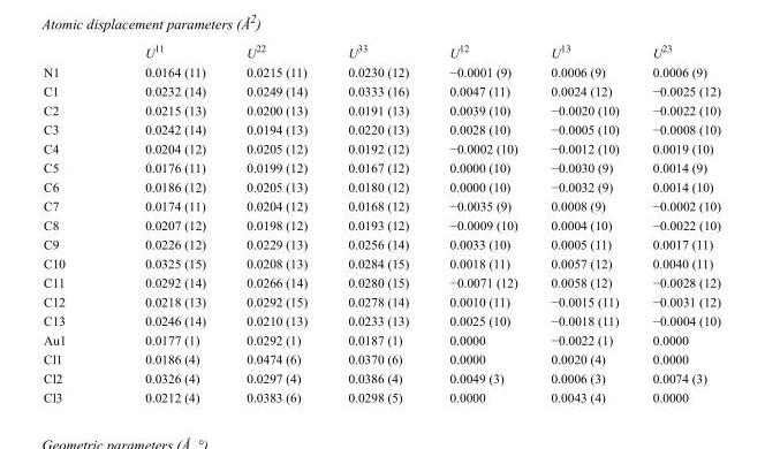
<table><thead><tr><td></td><td>U<sup>11</sup></td><td>U<sup>22</sup></td><td>U<sup>33</sup></td><td>U<sup>12</sup></td><td>U<sup>13</sup></td><td>U<sup>23</sup></td></tr></thead><tbody><tr><td>N1</td><td>0.0164 (11)</td><td>0.0215 (11)</td><td>0.0230 (12)</td><td>−0.0001 (9)</td><td>0.0006 (9)</td><td>0.0006 (9)</td></tr><tr><td>C1</td><td>0.0232 (14)</td><td>0.0249 (14)</td><td>0.0333 (16)</td><td>0.0047 (11)</td><td>0.0024 (12)</td><td>−0.0025 (12)</td></tr><tr><td>C2</td><td>0.0215 (13)</td><td>0.0200 (13)</td><td>0.0191 (13)</td><td>0.0039 (10)</td><td>−0.0020 (10)</td><td>−0.0022 (10)</td></tr><tr><td>C3</td><td>0.0242 (14)</td><td>0.0194 (13)</td><td>0.0220 (13)</td><td>0.0028 (10)</td><td>−0.0005 (10)</td><td>−0.0008 (10)</td></tr><tr><td>C4</td><td>0.0204 (12)</td><td>0.0205 (12)</td><td>0.0192 (12)</td><td>−0.0002 (10)</td><td>−0.0012 (10)</td><td>0.0019 (10)</td></tr><tr><td>C5</td><td>0.0176 (11)</td><td>0.0199 (12)</td><td>0.0167 (12)</td><td>0.0000 (10)</td><td>−0.0030 (9)</td><td>0.0014 (9)</td></tr><tr><td>C6</td><td>0.0186 (12)</td><td>0.0205 (13)</td><td>0.0180 (12)</td><td>0.0000 (10)</td><td>−0.0032 (9)</td><td>0.0014 (10)</td></tr><tr><td>C7</td><td>0.0174 (11)</td><td>0.0204 (12)</td><td>0.0168 (12)</td><td>−0.0035 (9)</td><td>0.0008 (9)</td><td>−0.0002 (10)</td></tr><tr><td>C8</td><td>0.0207 (12)</td><td>0.0198 (12)</td><td>0.0193 (12)</td><td>−0.0009 (10)</td><td>0.0004 (10)</td><td>−0.0022 (10)</td></tr><tr><td>C9</td><td>0.0226 (12)</td><td>0.0229 (13)</td><td>0.0256 (14)</td><td>0.0033 (10)</td><td>0.0005 (11)</td><td>0.0017 (11)</td></tr><tr><td>C10</td><td>0.0325 (15)</td><td>0.0208 (13)</td><td>0.0284 (15)</td><td>0.0018 (11)</td><td>0.0057 (12)</td><td>0.0040 (11)</td></tr><tr><td>C11</td><td>0.0292 (14)</td><td>0.0266 (14)</td><td>0.0280 (15)</td><td>−0.0071 (12)</td><td>0.0058 (12)</td><td>−0.0028 (12)</td></tr><tr><td>C12</td><td>0.0218 (13)</td><td>0.0292 (15)</td><td>0.0278 (14)</td><td>0.0010 (11)</td><td>−0.0015 (11)</td><td>−0.0031 (12)</td></tr><tr><td>C13</td><td>0.0246 (14)</td><td>0.0210 (13)</td><td>0.0233 (13)</td><td>0.0025 (10)</td><td>−0.0018 (11)</td><td>−0.0004 (10)</td></tr><tr><td>Au1</td><td>0.0177 (1)</td><td>0.0292 (1)</td><td>0.0187 (1)</td><td>0.0000</td><td>−0.0022 (1)</td><td>0.0000</td></tr><tr><td>Cl1</td><td>0.0186 (4)</td><td>0.0474 (6)</td><td>0.0370 (6)</td><td>0.0000</td><td>0.0020 (4)</td><td>0.0000</td></tr><tr><td>Cl2</td><td>0.0326 (4)</td><td>0.0297 (4)</td><td>0.0386 (4)</td><td>0.0049 (3)</td><td>0.0006 (3)</td><td>0.0074 (3)</td></tr><tr><td>Cl3</td><td>0.0212 (4)</td><td>0.0383 (6)</td><td>0.0298 (5)</td><td>0.0000</td><td>0.0043 (4)</td><td>0.0000</td></tr></tbody></table>